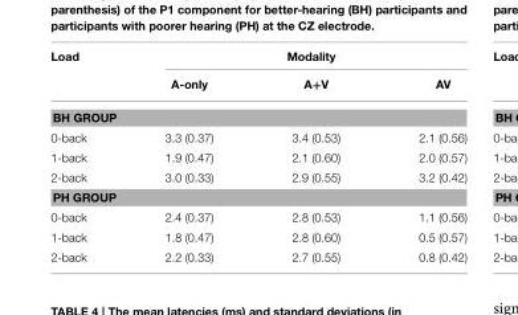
<table><thead><tr><td rowspan="2">Load</td><td colspan="3">Modality</td></tr><tr><td>A-only</td><td>A+V</td><td>AV</td></tr></thead><tbody><tr><td colspan="4">BH GROUP</td></tr><tr><td>0-back</td><td>3.3 (0.37)</td><td>3.4 (0.53)</td><td>2.1 (0.56)</td></tr><tr><td>1-back</td><td>1.9 (0.47)</td><td>2.1 (0.60)</td><td>2.0 (0.57)</td></tr><tr><td>2-back</td><td>3.0 (0.33)</td><td>2.9 (0.55)</td><td>3.2 (0.42)</td></tr><tr><td colspan="4">PH GROUP</td></tr><tr><td>0-back</td><td>2.4 (0.37)</td><td>2.8 (0.53)</td><td>1.1 (0.56)</td></tr><tr><td>1-back</td><td>1.8 (0.47)</td><td>2.8 (0.60)</td><td>0.5 (0.57)</td></tr><tr><td>2-back</td><td>2.2 (0.33)</td><td>2.7 (0.55)</td><td>0.8 (0.42)</td></tr></tbody></table>